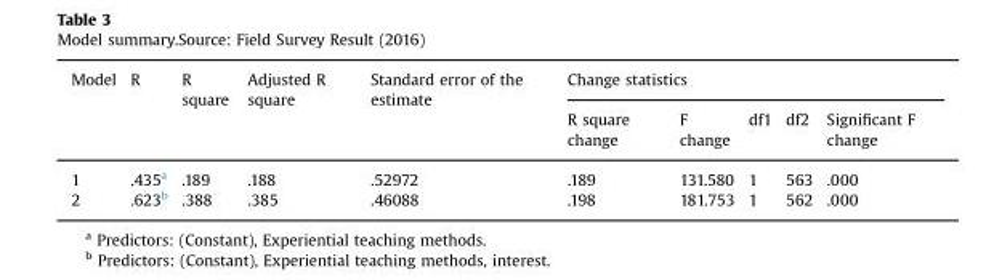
<table><thead><tr><td rowspan="2">Model</td><td rowspan="2">R</td><td rowspan="2">R square</td><td rowspan="2">Adjusted R square</td><td rowspan="2">Standard error of the estimate</td><td colspan="5">Change statistics</td></tr><tr><td>R square change</td><td>F change</td><td>df1</td><td>df2</td><td>Significant F change</td></tr></thead><tbody><tr><td>1</td><td>.435<sup>a</sup></td><td>.189</td><td>.188</td><td>.52972</td><td>.189</td><td>131.580</td><td>1</td><td>563</td><td>.000</td></tr><tr><td>2</td><td>.623<sup>b</sup></td><td>.388</td><td>.385</td><td>.46088</td><td>.198</td><td>181.753</td><td>1</td><td>562</td><td>.000</td></tr></tbody></table>